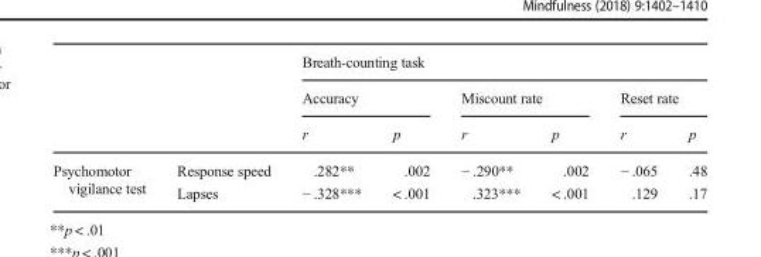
<table><thead><tr><td rowspan="3"></td><td rowspan="3"></td><td colspan="6">Breath-counting task</td></tr><tr><td colspan="2">Accuracy</td><td colspan="2">Miscount rate</td><td colspan="2">Reset rate</td></tr><tr><td>r</td><td>p</td><td>r</td><td>p</td><td>r</td><td>p</td></tr></thead><tbody><tr><td rowspan="2">Psychomotor vigilance test</td><td>Response speed</td><td>.282**</td><td>.002</td><td>− .290**</td><td>.002</td><td>− .065</td><td>.48</td></tr><tr><td>Lapses</td><td>− .328***</td><td>&lt; .001</td><td>.323***</td><td>&lt; .001</td><td>.129</td><td>.17</td></tr></tbody></table>